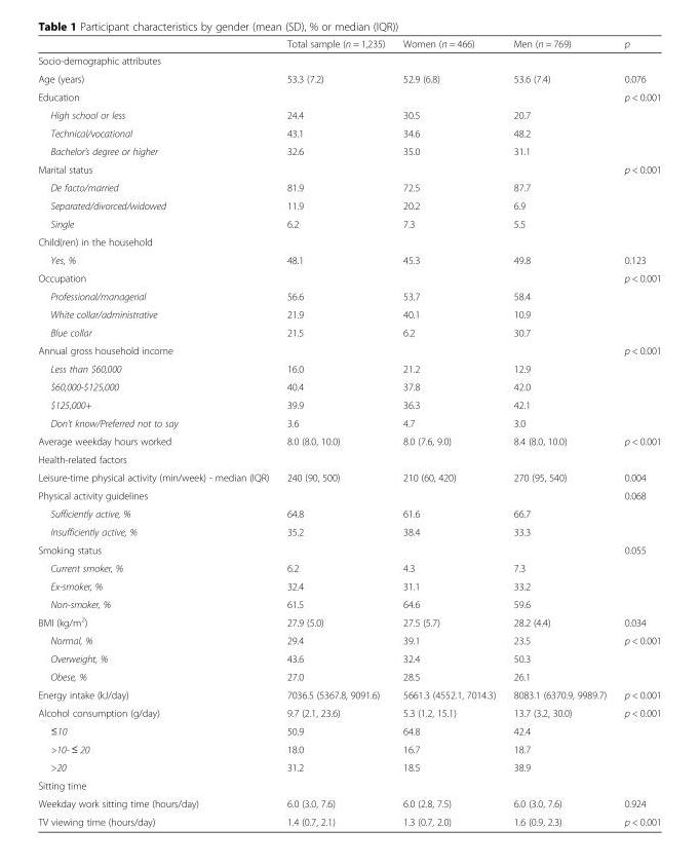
<table><thead><tr><td></td><td>Total sample (n = 1,235)</td><td>Women (n = 466)</td><td>Men (n = 769)</td><td>p</td></tr></thead><tbody><tr><td colspan="5">Socio-demographic attributes</td></tr><tr><td>Age (years)</td><td>53.3 (7.2)</td><td>52.9 (6.8)</td><td>53.6 (7.4)</td><td>0.076</td></tr><tr><td>Education</td><td></td><td></td><td></td><td>p &lt; 0.001</td></tr><tr><td>High school or less</td><td>24.4</td><td>30.5</td><td>20.7</td><td></td></tr><tr><td>Technical/vocational</td><td>43.1</td><td>34.6</td><td>48.2</td><td></td></tr><tr><td>Bachelor’s degree or higher</td><td>32.6</td><td>35.0</td><td>31.1</td><td></td></tr><tr><td>Marital status</td><td></td><td></td><td></td><td>p &lt; 0.001</td></tr><tr><td>De facto/married</td><td>81.9</td><td>72.5</td><td>87.7</td><td></td></tr><tr><td>Separated/divorced/widowed</td><td>11.9</td><td>20.2</td><td>6.9</td><td></td></tr><tr><td>Single</td><td>6.2</td><td>7.3</td><td>5.5</td><td></td></tr><tr><td colspan="5">Child(ren) in the household</td></tr><tr><td>Yes, %</td><td>48.1</td><td>45.3</td><td>49.8</td><td>0.123</td></tr><tr><td>Occupation</td><td></td><td></td><td></td><td>p &lt; 0.001</td></tr><tr><td>Professional/managerial</td><td>56.6</td><td>53.7</td><td>58.4</td><td></td></tr><tr><td>White collar/administrative</td><td>21.9</td><td>40.1</td><td>10.9</td><td></td></tr><tr><td>Blue collar</td><td>21.5</td><td>6.2</td><td>30.7</td><td></td></tr><tr><td>Annual gross household income</td><td></td><td></td><td></td><td>p &lt; 0.001</td></tr><tr><td>Less than $60,000</td><td>16.0</td><td>21.2</td><td>12.9</td><td></td></tr><tr><td>$60,000-$125,000</td><td>40.4</td><td>37.8</td><td>42.0</td><td></td></tr><tr><td>$125,000+</td><td>39.9</td><td>36.3</td><td>42.1</td><td></td></tr><tr><td>Don’t know/Preferred not to say</td><td>3.6</td><td>4.7</td><td>3.0</td><td></td></tr><tr><td>Average weekday hours worked</td><td>8.0 (8.0, 10.0)</td><td>8.0 (7.6, 9.0)</td><td>8.4 (8.0, 10.0)</td><td>p &lt; 0.001</td></tr><tr><td colspan="5">Health-related factors</td></tr><tr><td>Leisure-time physical activity (min/week) - median (IQR)</td><td>240 (90, 500)</td><td>210 (60, 420)</td><td>270 (95, 540)</td><td>0.004</td></tr><tr><td>Physical activity guidelines</td><td></td><td></td><td></td><td>0.068</td></tr><tr><td>Sufficiently active, %</td><td>64.8</td><td>61.6</td><td>66.7</td><td></td></tr><tr><td>Insufficiently active, %</td><td>35.2</td><td>38.4</td><td>33.3</td><td></td></tr><tr><td>Smoking status</td><td></td><td></td><td></td><td>0.055</td></tr><tr><td>Current smoker, %</td><td>6.2</td><td>4.3</td><td>7.3</td><td></td></tr><tr><td>Ex-smoker, %</td><td>32.4</td><td>31.1</td><td>33.2</td><td></td></tr><tr><td>Non-smoker, %</td><td>61.5</td><td>64.6</td><td>59.6</td><td></td></tr><tr><td>BMI (kg/m<sup>2</sup>)</td><td>27.9 (5.0)</td><td>27.5 (5.7)</td><td>28.2 (4.4)</td><td>0.034</td></tr><tr><td>Normal, %</td><td>29.4</td><td>39.1</td><td>23.5</td><td>p &lt; 0.001</td></tr><tr><td>Overweight, %</td><td>43.6</td><td>32.4</td><td>50.3</td><td></td></tr><tr><td>Obese, %</td><td>27.0</td><td>28.5</td><td>26.1</td><td></td></tr><tr><td>Energy intake (kJ/day)</td><td>7036.5 (5367.8, 9091.6)</td><td>5661.3 (4552.1, 7014.3)</td><td>8083.1 (6370.9, 9989.7)</td><td>p &lt; 0.001</td></tr><tr><td>Alcohol consumption (g/day)</td><td>9.7 (2.1, 23.6)</td><td>5.3 (1.2, 15.1)</td><td>13.7 (3.2, 30.0)</td><td>p &lt; 0.001</td></tr><tr><td>≤10</td><td>50.9</td><td>64.8</td><td>42.4</td><td></td></tr><tr><td>&gt;10- ≤ 20</td><td>18.0</td><td>16.7</td><td>18.7</td><td></td></tr><tr><td>&gt;20</td><td>31.2</td><td>18.5</td><td>38.9</td><td></td></tr><tr><td colspan="5">Sitting time</td></tr><tr><td>Weekday work sitting time (hours/day)</td><td>6.0 (3.0, 7.6)</td><td>6.0 (2.8, 7.5)</td><td>6.0 (3.0, 7.6)</td><td>0.924</td></tr><tr><td>TV viewing time (hours/day)</td><td>1.4 (0.7, 2.1)</td><td>1.3 (0.7, 2.0)</td><td>1.6 (0.9, 2.3)</td><td>p &lt; 0.001</td></tr></tbody></table>